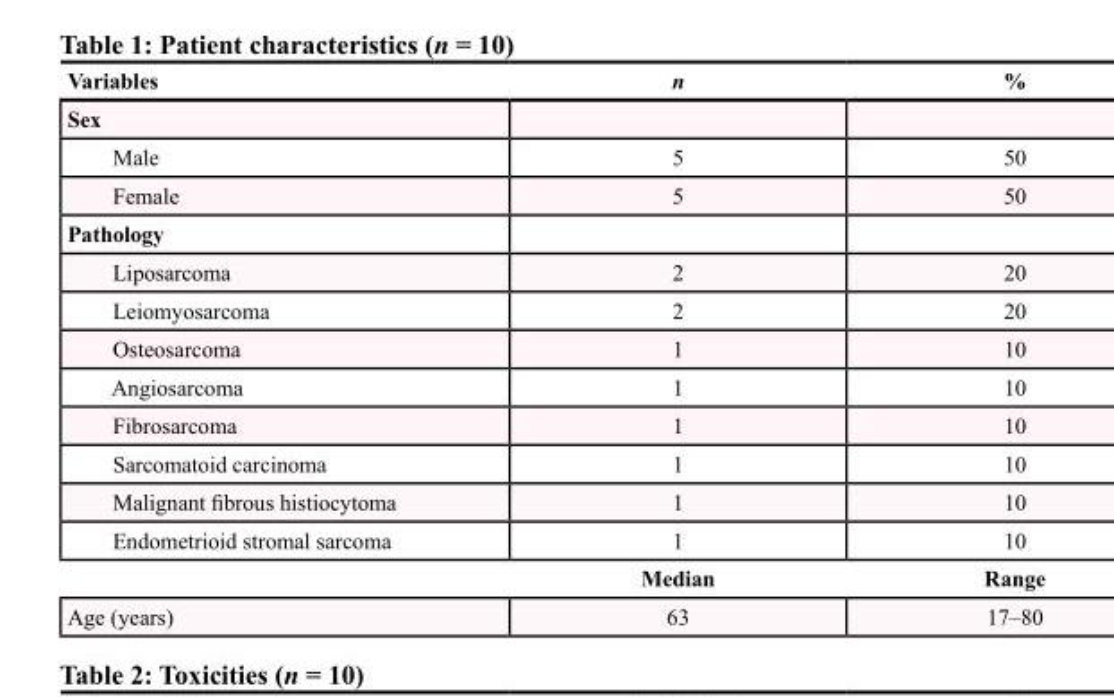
<table><thead><tr><td>Variables</td><td>n</td><td>%</td></tr></thead><tbody><tr><td colspan="3">Sex</td></tr><tr><td>Male</td><td>5</td><td>50</td></tr><tr><td>Female</td><td>5</td><td>50</td></tr><tr><td colspan="3">Pathology</td></tr><tr><td>Liposarcoma</td><td>2</td><td>20</td></tr><tr><td>Leiomyosarcoma</td><td>2</td><td>20</td></tr><tr><td>Osteosarcoma</td><td>1</td><td>10</td></tr><tr><td>Angiosarcoma</td><td>1</td><td>10</td></tr><tr><td>Fibrosarcoma</td><td>1</td><td>10</td></tr><tr><td>Sarcomatoid carcinoma</td><td>1</td><td>10</td></tr><tr><td>Malignant fibrous histiocytoma</td><td>1</td><td>10</td></tr><tr><td rowspan="2">Endometrioid stromal sarcoma</td><td>1</td><td>10</td></tr><tr><td>Median</td><td>Range</td></tr><tr><td>Age (years)</td><td>63</td><td>17–80</td></tr></tbody></table>